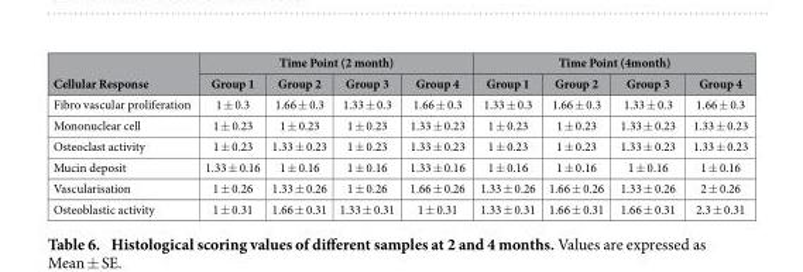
<table><thead><tr><td rowspan="2">Cellular Response</td><td colspan="4">Time Point (2 month)</td><td colspan="4">Time Point (4month)</td></tr><tr><td>Group 1</td><td>Group 2</td><td>Group 3</td><td>Group 4</td><td>Group 1</td><td>Group 2</td><td>Group 3</td><td>Group 4</td></tr></thead><tbody><tr><td>Fibro vascular proliferation</td><td>1 ± 0.3</td><td>1.66 ± 0.3</td><td>1.33 ± 0.3</td><td>1.66 ± 0.3</td><td>1.33 ± 0.3</td><td>1.66 ± 0.3</td><td>1.33 ± 0.3</td><td>1.66 ± 0.3</td></tr><tr><td>Mononuclear cell</td><td>1 ± 0.23</td><td>1 ± 0.23</td><td>1 ± 0.23</td><td>1.33 ± 0.23</td><td>1 ± 0.23</td><td>1 ± 0.23</td><td>1.33 ± 0.23</td><td>1.33 ± 0.23</td></tr><tr><td>Osteoclast activity</td><td>1 ± 0.23</td><td>1.33 ± 0.23</td><td>1 ± 0.23</td><td>1.33 ± 0.23</td><td>1 ± 0.23</td><td>1 ± 0.23</td><td>1.33 ± 0.23</td><td>1.33 ± 0.23</td></tr><tr><td>Mucin deposit</td><td>1.33 ± 0.16</td><td>1 ± 0.16</td><td>1 ± 0.16</td><td>1.33 ± 0.16</td><td>1 ± 0.16</td><td>1 ± 0.16</td><td>1 ± 0.16</td><td>1 ± 0.16</td></tr><tr><td>Vascularisation</td><td>1 ± 0.26</td><td>1.33 ± 0.26</td><td>1 ± 0.26</td><td>1.66 ± 0.26</td><td>1.33 ± 0.26</td><td>1.66 ± 0.26</td><td>1.33 ± 0.26</td><td>2 ± 0.26</td></tr><tr><td>Osteoblastic activity</td><td>1 ± 0.31</td><td>1.66 ± 0.31</td><td>1.33 ± 0.31</td><td>1 ± 0.31</td><td>1.33 ± 0.31</td><td>1.66 ± 0.31</td><td>1.66 ± 0.31</td><td>2.3 ± 0.31</td></tr></tbody></table>